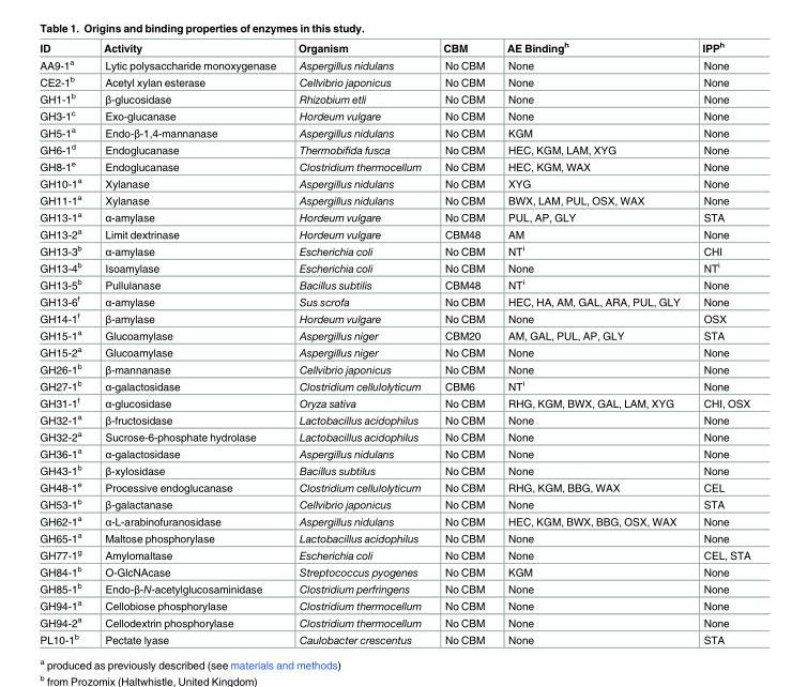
<table><thead><tr><td>ID</td><td>Activity</td><td>Organism</td><td>CBM</td><td>AE Binding<sup>h</sup></td><td>IPP<sup>h</sup></td></tr></thead><tbody><tr><td>AA9-1<sup>a</sup></td><td>Lytic polysaccharide monoxygenase</td><td>Aspergillus nidulans</td><td>No CBM</td><td>None</td><td>None</td></tr><tr><td>CE2-1<sup>b</sup></td><td>Acetyl xylan esterase</td><td>Cellvibrio japonicus</td><td>No CBM</td><td>None</td><td>None</td></tr><tr><td>GH1-1<sup>b</sup></td><td>β-glucosidase</td><td>Rhizobium etli</td><td>No CBM</td><td>None</td><td>None</td></tr><tr><td>GH3-1<sup>c</sup></td><td>Exo-glucanase</td><td>Hordeum vulgare</td><td>No CBM</td><td>None</td><td>None</td></tr><tr><td>GH5-1<sup>a</sup></td><td>Endo-β-1,4-mannanase</td><td>Aspergillus nidulans</td><td>No CBM</td><td>KGM</td><td>None</td></tr><tr><td>GH6-1<sup>d</sup></td><td>Endoglucanase</td><td>Thermobifida fusca</td><td>No CBM</td><td>HEC, KGM, LAM, XYG</td><td>None</td></tr><tr><td>GH8-1<sup>e</sup></td><td>Endoglucanase</td><td>Clostridium thermocellum</td><td>No CBM</td><td>HEC, KGM, WAX</td><td>None</td></tr><tr><td>GH10-1<sup>a</sup></td><td>Xylanase</td><td>Aspergillus nidulans</td><td>No CBM</td><td>XYG</td><td>None</td></tr><tr><td>GH11-1<sup>a</sup></td><td>Xylanase</td><td>Aspergillus nidulans</td><td>No CBM</td><td>BWX, LAM, PUL, OSX, WAX</td><td>None</td></tr><tr><td>GH13-1<sup>a</sup></td><td>α-amylase</td><td>Hordeum vulgare</td><td>No CBM</td><td>PUL, AP, GLY</td><td>STA</td></tr><tr><td>GH13-2<sup>a</sup></td><td>Limit dextrinase</td><td>Hordeum vulgare</td><td>CBM48</td><td>AM</td><td>None</td></tr><tr><td>GH13-3<sup>b</sup></td><td>α-amylase</td><td>Escherichia coli</td><td>No CBM</td><td>NT<sup>i</sup></td><td>CHI</td></tr><tr><td>GH13-4<sup>b</sup></td><td>Isoamylase</td><td>Escherichia coli</td><td>No CBM</td><td>None</td><td>NT<sup>i</sup></td></tr><tr><td>GH13-5<sup>b</sup></td><td>Pullulanase</td><td>Bacillus subtilis</td><td>CBM48</td><td>NT<sup>i</sup></td><td>None</td></tr><tr><td>GH13-6<sup>f</sup></td><td>α-amylase</td><td>Sus scrofa</td><td>No CBM</td><td>HEC, HA, AM, GAL, ARA, PUL, GLY</td><td>None</td></tr><tr><td>GH14-1<sup>f</sup></td><td>β-amylase</td><td>Hordeum vulgare</td><td>No CBM</td><td>None</td><td>OSX</td></tr><tr><td>GH15-1<sup>a</sup></td><td>Glucoamylase</td><td>Aspergillus niger</td><td>CBM20</td><td>AM, GAL, PUL, AP, GLY</td><td>STA</td></tr><tr><td>GH15-2<sup>a</sup></td><td>Glucoamylase</td><td>Aspergillus niger</td><td>No CBM</td><td>None</td><td>None</td></tr><tr><td>GH26-1<sup>b</sup></td><td>β-mannanase</td><td>Cellvibrio japonicus</td><td>No CBM</td><td>None</td><td>None</td></tr><tr><td>GH27-1<sup>b</sup></td><td>α-galactosidase</td><td>Clostridium cellulolyticum</td><td>CBM6</td><td>NT<sup>i</sup></td><td>None</td></tr><tr><td>GH31-1<sup>f</sup></td><td>α-glucosidase</td><td>Oryza sativa</td><td>No CBM</td><td>RHG, KGM, BWX, GAL, LAM, XYG</td><td>CHI, OSX</td></tr><tr><td>GH32-1<sup>a</sup></td><td>β-fructosidase</td><td>Lactobacillus acidophilus</td><td>No CBM</td><td>None</td><td>None</td></tr><tr><td>GH32-2<sup>a</sup></td><td>Sucrose-6-phosphate hydrolase</td><td>Lactobacillus acidophilus</td><td>No CBM</td><td>None</td><td>None</td></tr><tr><td>GH36-1<sup>a</sup></td><td>α-galactosidase</td><td>Aspergillus nidulans</td><td>No CBM</td><td>None</td><td>None</td></tr><tr><td>GH43-1<sup>b</sup></td><td>β-xylosidase</td><td>Bacillus subtilus</td><td>No CBM</td><td>None</td><td>None</td></tr><tr><td>GH48-1<sup>e</sup></td><td>Processive endoglucanase</td><td>Clostridium cellulolyticum</td><td>No CBM</td><td>RHG, KGM, BBG, WAX</td><td>CEL</td></tr><tr><td>GH53-1<sup>b</sup></td><td>β-galactanase</td><td>Cellvibrio japonicus</td><td>No CBM</td><td>None</td><td>STA</td></tr><tr><td>GH62-1<sup>a</sup></td><td>α-L-arabinofuranosidase</td><td>Aspergillus nidulans</td><td>No CBM</td><td>HEC, KGM, BWX, BBG, OSX, WAX</td><td>None</td></tr><tr><td>GH65-1<sup>a</sup></td><td>Maltose phosphorylase</td><td>Lactobacillus acidophilus</td><td>No CBM</td><td>None</td><td>None</td></tr><tr><td>GH77-1<sup>g</sup></td><td>Amylomaltase</td><td>Escherichia coli</td><td>No CBM</td><td>None</td><td>CEL, STA</td></tr><tr><td>GH84-1<sup>b</sup></td><td>O-GlcNAcase</td><td>Streptococcus pyogenes</td><td>No CBM</td><td>KGM</td><td>None</td></tr><tr><td>GH85-1<sup>b</sup></td><td>Endo-β-N-acetylglucosaminidase</td><td>Clostridium perfringens</td><td>No CBM</td><td>None</td><td>None</td></tr><tr><td>GH94-1<sup>a</sup></td><td>Cellobiose phosphorylase</td><td>Clostridium thermocellum</td><td>No CBM</td><td>None</td><td>None</td></tr><tr><td>GH94-2<sup>a</sup></td><td>Cellodextrin phosphorylase</td><td>Clostridium thermocellum</td><td>No CBM</td><td>None</td><td>None</td></tr><tr><td>PL10-1<sup>b</sup></td><td>Pectate lyase</td><td>Caulobacter crescentus</td><td>No CBM</td><td>None</td><td>STA</td></tr></tbody></table>